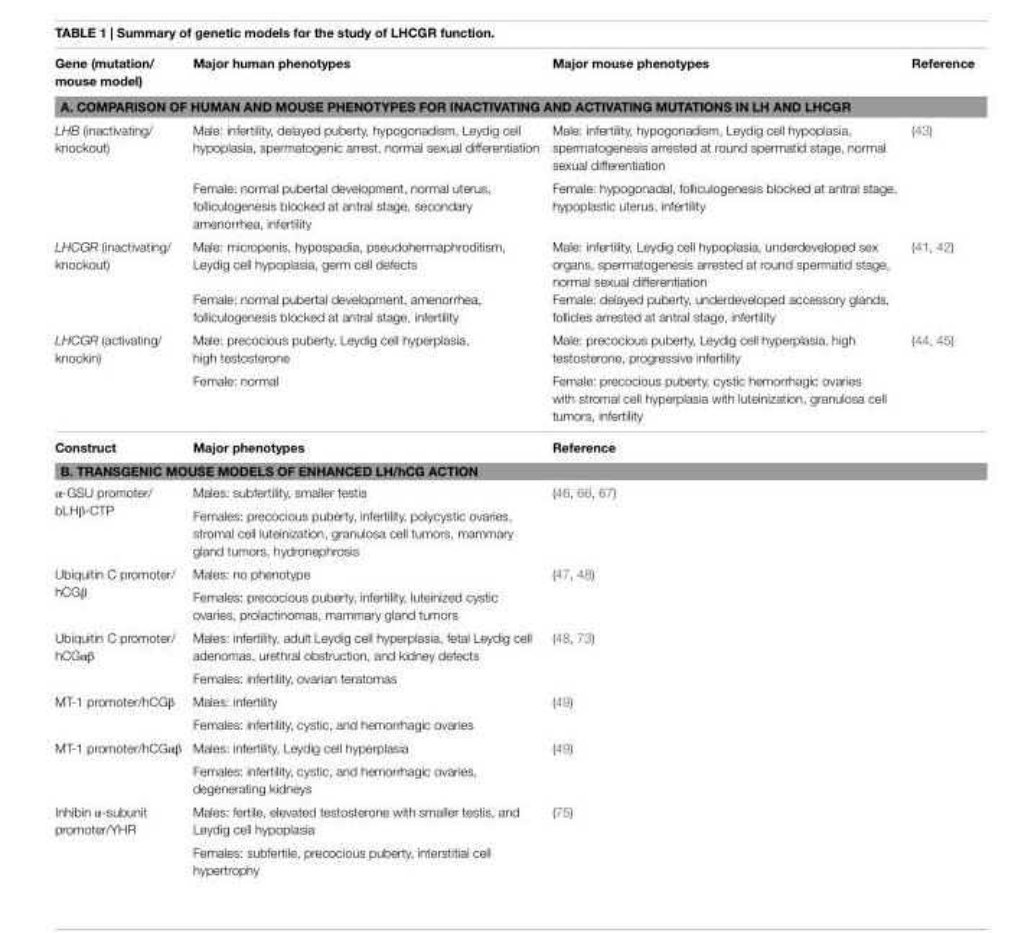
<table><thead><tr><td>Gene (mutation/ mouse model)</td><td>Major human phenotypes</td><td>Major mouse phenotypes</td><td>Reference</td></tr></thead><tbody><tr><td colspan="4">A. COMPARiSON OF HUMAN AND MOUSe PHeNOTYPeS FOR iNACTivATiNG AND ACTivATiNG MUTATiONS iN LH AND LHCGR</td></tr><tr><td rowspan="2">LHB (inactivating/ knockout)</td><td>Male: infertility, delayed puberty, hypogonadism, Leydig cell hypoplasia, spermatogenic arrest, normal sexual differentiation</td><td>Male: infertility, hypogonadism, Leydig cell hypoplasia, spermatogenesis arrested at round spermatid stage, normal sexual differentiation</td><td rowspan="2">(43)</td></tr><tr><td>Female: normal pubertal development, normal uterus, folliculogenesis blocked at antral stage, secondary amenorrhea, infertility</td><td>Female: hypogonadal, folliculogenesis blocked at antral stage, hypoplastic uterus, infertility</td></tr><tr><td rowspan="2">LHCGR (inactivating/ knockout)</td><td>Male: micropenis, hypospadia, pseudohermaphroditism, Leydig cell hypoplasia, germ cell defects</td><td>Male: infertility, Leydig cell hypoplasia, underdeveloped sex organs, spermatogenesis arrested at round spermatid stage, normal sexual differentiation</td><td rowspan="2">(41, 42)</td></tr><tr><td>Female: normal pubertal development, amenorrhea, folliculogenesis blocked at antral stage, infertility</td><td>Female: delayed puberty, underdeveloped accessory glands, follicles arrested at antral stage, infertility</td></tr><tr><td rowspan="2">LHCGR (activating/ knockin)</td><td>Male: precocious puberty, Leydig cell hyperplasia, high testosterone</td><td>Male: precocious puberty, Leydig cell hyperplasia, high testosterone, progressive infertility</td><td rowspan="2">(44, 45)</td></tr><tr><td>Female: normal</td><td>Female: precocious puberty, cystic hemorrhagic ovaries with stromal cell hyperplasia with luteinization, granulosa cell tumors, infertility</td></tr><tr><td>Construct</td><td>Major phenotypes</td><td>Reference</td><td></td></tr><tr><td colspan="4">B. TRANSGeNiC MOUSe MODeLS OF eNHANCeD LH/hCG ACTiON</td></tr><tr><td rowspan="2">α-GSU promoter/ bLHβ-CTP</td><td>Males: subfertility, smaller testis</td><td rowspan="2">(46, 66, 67)</td><td></td></tr><tr><td>Females: precocious puberty, infertility, polycystic ovaries, stromal cell luteinization, granulosa cell tumors, mammary gland tumors, hydronephrosis</td><td></td></tr><tr><td rowspan="2">Ubiquitin C promoter/ hCGβ</td><td>Males: no phenotype</td><td rowspan="2">(47, 48)</td><td></td></tr><tr><td>Females: precocious puberty, infertility, luteinized cystic ovaries, prolactinomas, mammary gland tumors</td><td></td></tr><tr><td rowspan="2">Ubiquitin C promoter/ hCGαβ</td><td>Males: infertility, adult Leydig cell hyperplasia, fetal Leydig cell adenomas, urethral obstruction, and kidney defects</td><td rowspan="2">(48, 73)</td><td></td></tr><tr><td>Females: infertility, ovarian teratomas</td><td></td></tr><tr><td rowspan="2">MT-1 promoter/hCGβ</td><td>Males: infertility</td><td rowspan="2">(49)</td><td></td></tr><tr><td>Females: infertility, cystic, and hemorrhagic ovaries</td><td></td></tr><tr><td rowspan="2">MT-1 promoter/hCGαβ</td><td>Males: infertility, Leydig cell hyperplasia</td><td rowspan="2">(49)</td><td></td></tr><tr><td>Females: infertility, cystic, and hemorrhagic ovaries, degenerating kidneys</td><td></td></tr><tr><td rowspan="2">Inhibin α-subunit promoter/YHR</td><td>Males: fertile, elevated testosterone with smaller testis, and Leydig cell hypoplasia</td><td rowspan="2">(75)</td><td></td></tr><tr><td>Females: subfertile, precocious puberty, interstitial cell hypertrophy</td><td></td></tr></tbody></table>